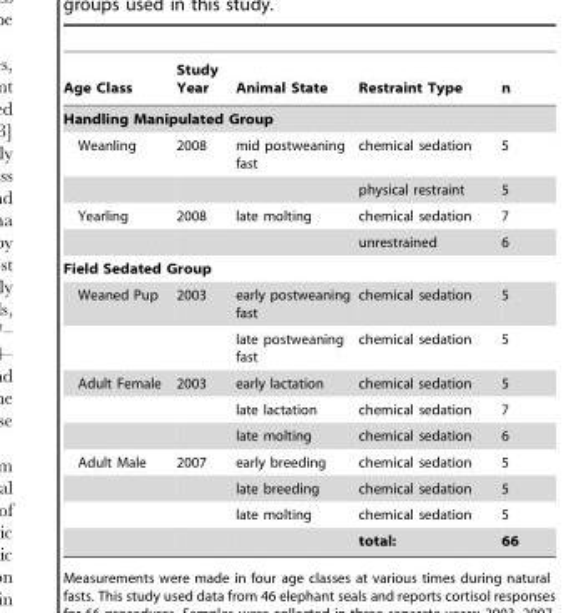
<table><thead><tr><td>Age Class</td><td>Study Year</td><td>Animal State</td><td>Restraint Type</td><td>n</td></tr></thead><tbody><tr><td colspan="5">Handling Manipulated Group</td></tr><tr><td rowspan="2">Weanling</td><td>2008</td><td>mid postweaning fast</td><td>chemical sedation</td><td>5</td></tr><tr><td></td><td></td><td>physical restraint</td><td>5</td></tr><tr><td rowspan="2">Yearling</td><td>2008</td><td>late molting</td><td>chemical sedation</td><td>7</td></tr><tr><td></td><td></td><td>unrestrained</td><td>6</td></tr><tr><td colspan="5">Field Sedated Group</td></tr><tr><td rowspan="2">Weaned Pup</td><td>2003</td><td>early postweaning fast</td><td>chemical sedation</td><td>5</td></tr><tr><td></td><td>late postweaning fast</td><td>chemical sedation</td><td>5</td></tr><tr><td rowspan="3">Adult Female</td><td>2003</td><td>early lactation</td><td>chemical sedation</td><td>5</td></tr><tr><td></td><td>late lactation</td><td>chemical sedation</td><td>7</td></tr><tr><td></td><td>late molting</td><td>chemical sedation</td><td>6</td></tr><tr><td rowspan="4">Adult Male</td><td>2007</td><td>early breeding</td><td>chemical sedation</td><td>5</td></tr><tr><td></td><td>late breeding</td><td>chemical sedation</td><td>5</td></tr><tr><td></td><td>late molting</td><td>chemical sedation</td><td>5</td></tr><tr><td></td><td></td><td>total:</td><td>66</td></tr></tbody></table>